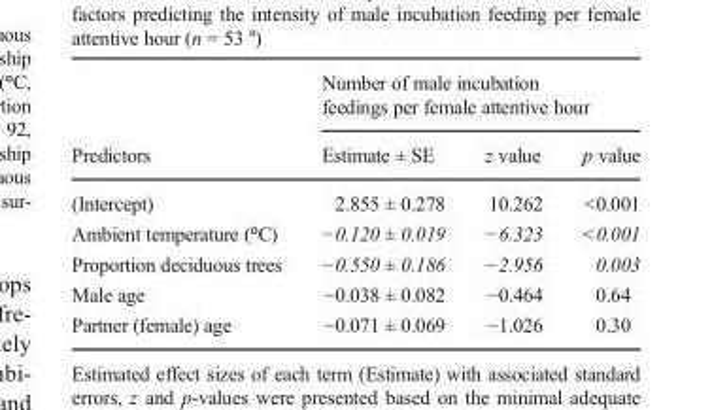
<table><thead><tr><td rowspan="2">Predictors</td><td colspan="3">Number of male incubation feedings per female attentive hour</td></tr><tr><td>Estimate ± SE</td><td>z value</td><td>p value</td></tr></thead><tbody><tr><td>(Intercept)</td><td>2.855 ± 0.278</td><td>10.262</td><td>&lt;0.001</td></tr><tr><td>Ambient temperature (°C)</td><td>−0.120 ± 0.019</td><td>−6.323</td><td>&lt;0.001</td></tr><tr><td>Proportion deciduous trees</td><td>−0.550 ± 0.186</td><td>−2.956</td><td>0.003</td></tr><tr><td>Male age</td><td>−0.038 ± 0.082</td><td>−0.464</td><td>0.64</td></tr><tr><td>Partner (female) age</td><td>−0.071 ± 0.069</td><td>−1.026</td><td>0.30</td></tr></tbody></table>